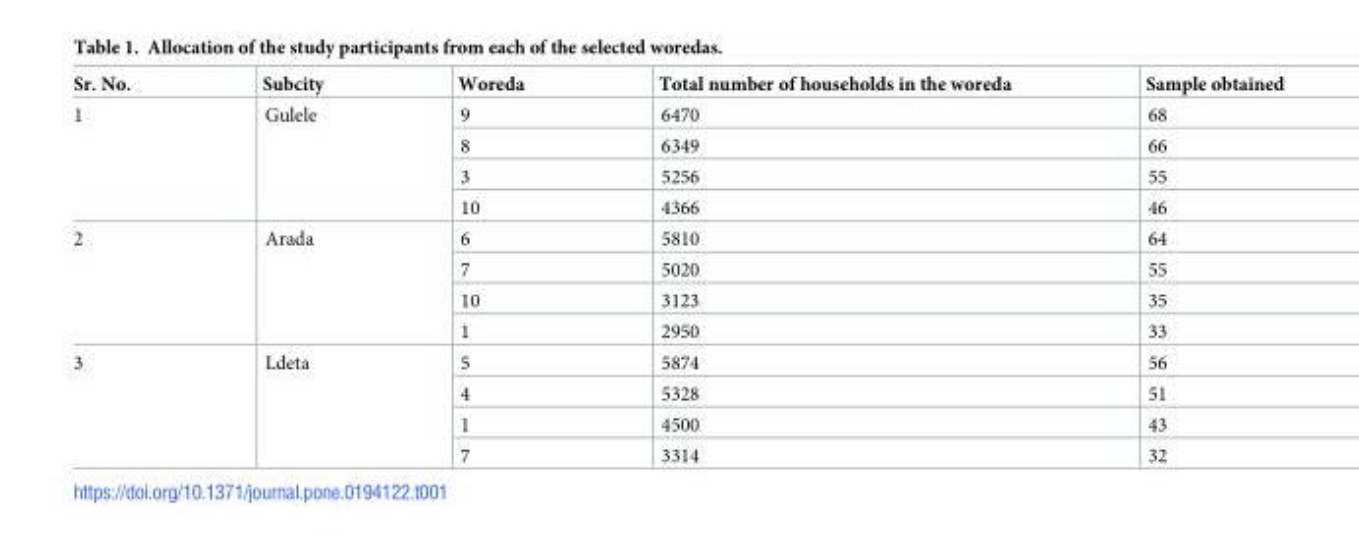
<table><thead><tr><td>Sr. No.</td><td>Subcity</td><td>Woreda</td><td>Total number of households in the woreda</td><td>Sample obtained</td></tr></thead><tbody><tr><td rowspan="4">1</td><td rowspan="4">Gulele</td><td>9</td><td>6470</td><td>68</td></tr><tr><td>8</td><td>6349</td><td>66</td></tr><tr><td>3</td><td>5256</td><td>55</td></tr><tr><td>10</td><td>4366</td><td>46</td></tr><tr><td rowspan="4">2</td><td rowspan="4">Arada</td><td>6</td><td>5810</td><td>64</td></tr><tr><td>7</td><td>5020</td><td>55</td></tr><tr><td>10</td><td>3123</td><td>35</td></tr><tr><td>1</td><td>2950</td><td>33</td></tr><tr><td rowspan="4">3</td><td rowspan="4">Ldeta</td><td>5</td><td>5874</td><td>56</td></tr><tr><td>4</td><td>5328</td><td>51</td></tr><tr><td>1</td><td>4500</td><td>43</td></tr><tr><td>7</td><td>3314</td><td>32</td></tr></tbody></table>